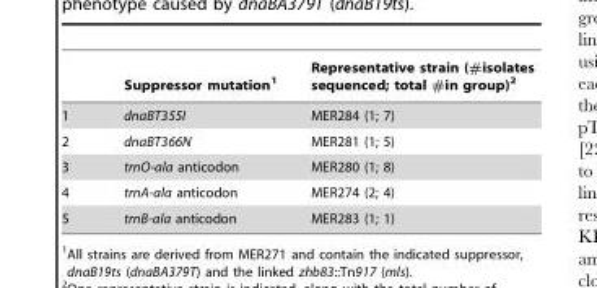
<table><thead><tr><td></td><td>Suppressor mutation<sup>1</sup></td><td>Representative strain (#isolates sequenced; total #in group)<sup>2</sup></td></tr></thead><tbody><tr><td>1</td><td>dnaBT355I</td><td>MER284 (1; 7)</td></tr><tr><td>2</td><td>dnaBT366N</td><td>MER281 (1; 5)</td></tr><tr><td>3</td><td>trnO-ala anticodon</td><td>MER280 (1; 8)</td></tr><tr><td>4</td><td>trnA-ala anticodon</td><td>MER274 (2; 4)</td></tr><tr><td>5</td><td>trnB-ala anticodon</td><td>MER283 (1; 1)</td></tr></tbody></table>